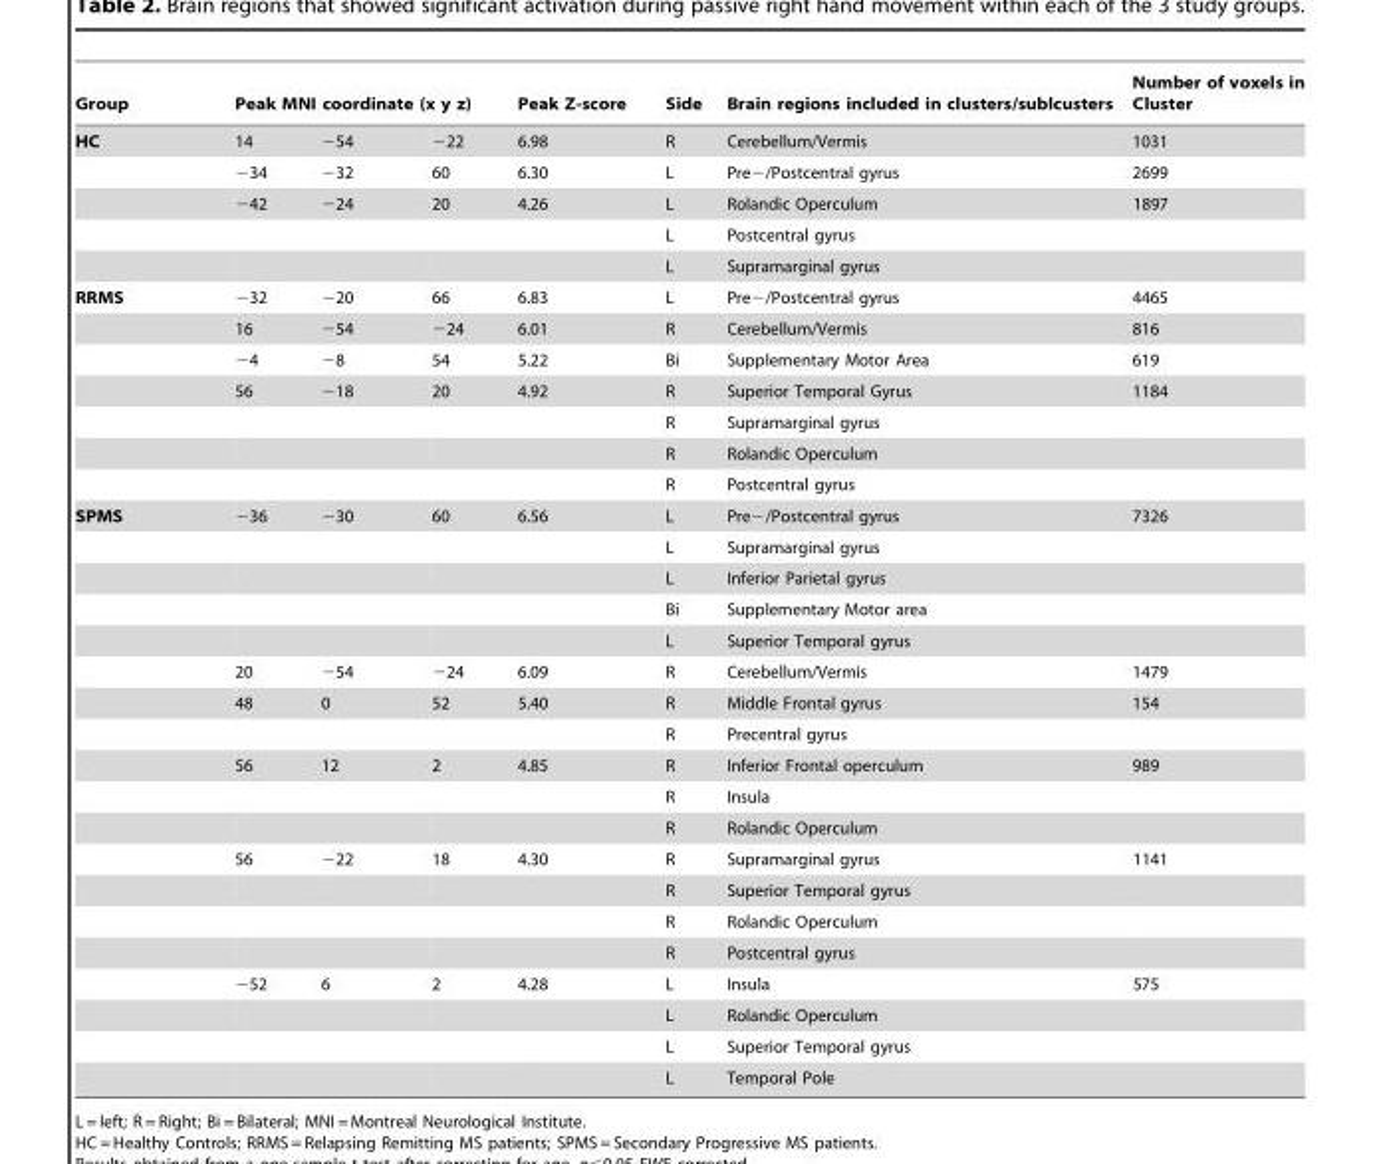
<table><thead><tr><td rowspan="2">Group HC</td><td colspan="3">Peak MNI coordinate (x y z)</td><td rowspan="2">Peak Z-score 6.98</td><td rowspan="2">Side R</td><td rowspan="2">Brain regions included in clusters/sublcusters Cerebellum/Vermis</td><td rowspan="2">Number of voxels in Cluster 1031</td></tr><tr><td>14</td><td>−54</td><td>−22</td></tr></thead><tbody><tr><td></td><td>−34</td><td>−32</td><td>60</td><td>6.30</td><td>L</td><td>Pre−/Postcentral gyrus</td><td>2699</td></tr><tr><td></td><td>−42</td><td>−24</td><td>20</td><td>4.26</td><td>L</td><td>Rolandic Operculum</td><td>1897</td></tr><tr><td></td><td></td><td></td><td></td><td></td><td>L</td><td>Postcentral gyrus</td><td></td></tr><tr><td></td><td></td><td></td><td></td><td></td><td>L</td><td>Supramarginal gyrus</td><td></td></tr><tr><td rowspan="7">RRMS</td><td>−32</td><td>−20</td><td>66</td><td>6.83</td><td>L</td><td>Pre−/Postcentral gyrus</td><td>4465</td></tr><tr><td>16</td><td>−54</td><td>−24</td><td>6.01</td><td>R</td><td>Cerebellum/Vermis</td><td>816</td></tr><tr><td>−4</td><td>−8</td><td>54</td><td>5.22</td><td>Bi</td><td>Supplementary Motor Area</td><td>619</td></tr><tr><td>56</td><td>−18</td><td>20</td><td>4.92</td><td>R</td><td>Superior Temporal Gyrus</td><td>1184</td></tr><tr><td></td><td></td><td></td><td></td><td>R</td><td>Supramarginal gyrus</td><td></td></tr><tr><td></td><td></td><td></td><td></td><td>R</td><td>Rolandic Operculum</td><td></td></tr><tr><td></td><td></td><td></td><td></td><td>R</td><td>Postcentral gyrus</td><td></td></tr><tr><td rowspan="19">SPMS</td><td>−36</td><td>−30</td><td>60</td><td>6.56</td><td>L</td><td>Pre−/Postcentral gyrus</td><td>7326</td></tr><tr><td></td><td></td><td></td><td></td><td>L</td><td>Supramarginal gyrus</td><td></td></tr><tr><td></td><td></td><td></td><td></td><td>L</td><td>Inferior Parietal gyrus</td><td></td></tr><tr><td></td><td></td><td></td><td></td><td>Bi</td><td>Supplementary Motor area</td><td></td></tr><tr><td></td><td></td><td></td><td></td><td>L</td><td>Superior Temporal gyrus</td><td></td></tr><tr><td>20</td><td>−54</td><td>−24</td><td>6.09</td><td>R</td><td>Cerebellum/Vermis</td><td>1479</td></tr><tr><td>48</td><td>0</td><td>52</td><td>5.40</td><td>R</td><td>Middle Frontal gyrus</td><td>154</td></tr><tr><td></td><td></td><td></td><td></td><td>R</td><td>Precentral gyrus</td><td></td></tr><tr><td>56</td><td>12</td><td>2</td><td>4.85</td><td>R</td><td>Inferior Frontal operculum</td><td>989</td></tr><tr><td></td><td></td><td></td><td></td><td>R</td><td>Insula</td><td></td></tr><tr><td></td><td></td><td></td><td></td><td>R</td><td>Rolandic Operculum</td><td></td></tr><tr><td>56</td><td>−22</td><td>18</td><td>4.30</td><td>R</td><td>Supramarginal gyrus</td><td>1141</td></tr><tr><td></td><td></td><td></td><td></td><td>R</td><td>Superior Temporal gyrus</td><td></td></tr><tr><td></td><td></td><td></td><td></td><td>R</td><td>Rolandic Operculum</td><td></td></tr><tr><td></td><td></td><td></td><td></td><td>R</td><td>Postcentral gyrus</td><td></td></tr><tr><td>−52</td><td>6</td><td>2</td><td>4.28</td><td>L</td><td>Insula</td><td>575</td></tr><tr><td></td><td></td><td></td><td></td><td>L</td><td>Rolandic Operculum</td><td></td></tr><tr><td></td><td></td><td></td><td></td><td>L</td><td>Superior Temporal gyrus</td><td></td></tr><tr><td></td><td></td><td></td><td></td><td>L</td><td>Temporal Pole</td><td></td></tr></tbody></table>